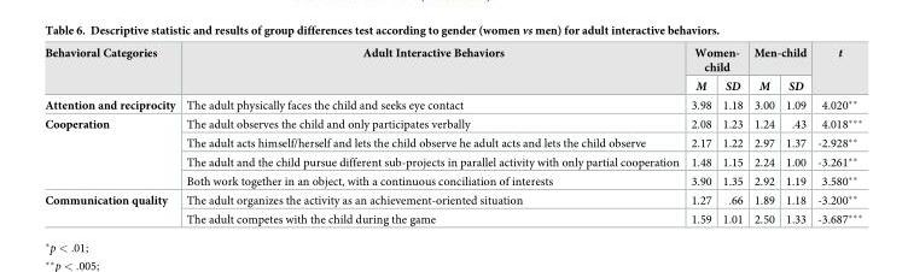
<table><thead><tr><td rowspan="2">Behavioral Categories</td><td rowspan="2">Adult Interactive Behaviors</td><td colspan="2">Women- child</td><td colspan="2">Men-child</td><td rowspan="2">t</td></tr><tr><td>M</td><td>SD</td><td>M</td><td>SD</td></tr></thead><tbody><tr><td>Attention and reciprocity</td><td>The adult physically faces the child and seeks eye contact</td><td>3.98</td><td>1.18</td><td>3.00</td><td>1.09</td><td>4.020**</td></tr><tr><td rowspan="4">Cooperation</td><td>The adult observes the child and only participates verbally</td><td>2.08</td><td>1.23</td><td>1.24</td><td>.43</td><td>4.018***</td></tr><tr><td>The adult acts himself/herself and lets the child observe he adult acts and lets the child observe</td><td>2.17</td><td>1.22</td><td>2.97</td><td>1.37</td><td>-2.928**</td></tr><tr><td>The adult and the child pursue different sub-projects in parallel activity with only partial cooperation</td><td>1.48</td><td>1.15</td><td>2.24</td><td>1.00</td><td>-3.261**</td></tr><tr><td>Both work together in an object, with a continuous conciliation of interests</td><td>3.90</td><td>1.35</td><td>2.92</td><td>1.19</td><td>3.580**</td></tr><tr><td rowspan="2">Communication quality</td><td>The adult organizes the activity as an achievement-oriented situation</td><td>1.27</td><td>.66</td><td>1.89</td><td>1.18</td><td>-3.200**</td></tr><tr><td>The adult competes with the child during the game</td><td>1.59</td><td>1.01</td><td>2.50</td><td>1.33</td><td>-3.687***</td></tr></tbody></table>